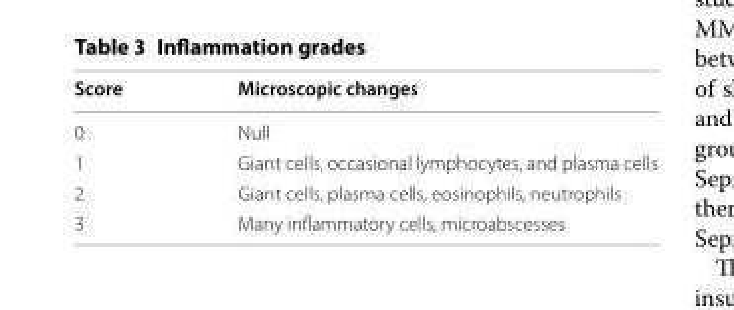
<table><thead><tr><td>Score</td><td>Microscopic changes</td></tr></thead><tbody><tr><td>0</td><td>Null</td></tr><tr><td>1</td><td>Giant cells, occasional lymphocytes, and plasma cells</td></tr><tr><td>2</td><td>Giant cells, plasma cells, eosinophils, neutrophils</td></tr><tr><td>3</td><td>Many inflammatory cells, microabscesses</td></tr></tbody></table>